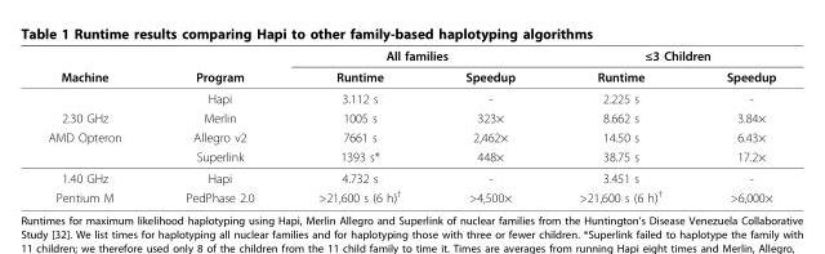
<table><thead><tr><td rowspan="2">Machine</td><td rowspan="2">Program</td><td colspan="2">All families</td><td colspan="2">≤3 Children</td></tr><tr><td>Runtime</td><td>Speedup</td><td>Runtime</td><td>Speedup</td></tr></thead><tbody><tr><td></td><td>Hapi</td><td>3.112 s</td><td>-</td><td>2.225 s</td><td>-</td></tr><tr><td>2.30 GHz</td><td>Merlin</td><td>1005 s</td><td>323×</td><td>8.662 s</td><td>3.84×</td></tr><tr><td rowspan="2">AMD Opteron</td><td>Allegro v2</td><td>7661 s</td><td>2,462×</td><td>14.50 s</td><td>6.43×</td></tr><tr><td>Superlink</td><td>1393 s*</td><td>448×</td><td>38.75 s</td><td>17.2×</td></tr><tr><td>1.40 GHz</td><td>Hapi</td><td>4.732 s</td><td>-</td><td>3.451 s</td><td>-</td></tr><tr><td>Pentium M</td><td>PedPhase 2.0</td><td>&gt;21,600 s (6 h)<sup>†</sup></td><td>&gt;4,500×</td><td>&gt;21,600 s (6 h)<sup>†</sup></td><td>&gt;6,000×</td></tr></tbody></table>